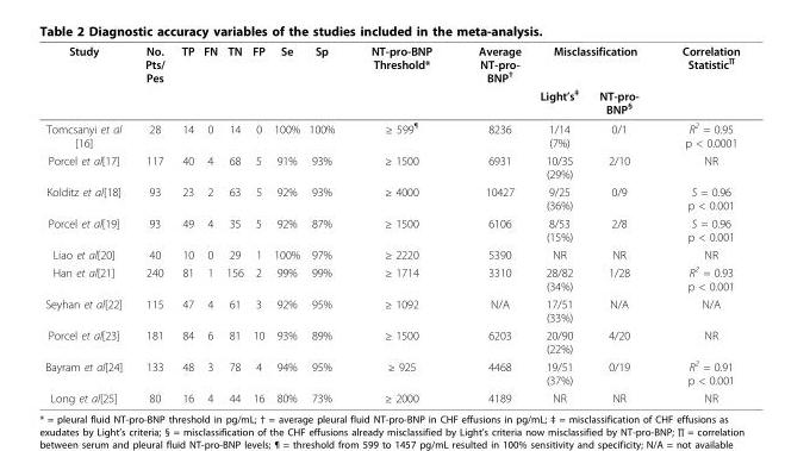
<table><thead><tr><td rowspan="2">Study</td><td rowspan="2">No. Pts/ Pes</td><td rowspan="2">TP</td><td rowspan="2">FN</td><td rowspan="2">TN</td><td rowspan="2">FP</td><td rowspan="2">Se</td><td rowspan="2">Sp</td><td rowspan="2">NT-pro-BNP Threshold*</td><td rowspan="2">Average NT-pro- BNP<sup>†</sup></td><td colspan="2">Misclassification</td><td rowspan="2">Correlation Statistic<sup>∏</sup></td></tr><tr><td>Light’s<sup>‡</sup></td><td>NT-pro- BNP<sup>§</sup></td></tr></thead><tbody><tr><td>Tomcsanyi et al [16]</td><td>28</td><td>14</td><td>0</td><td>14</td><td>0</td><td>100%</td><td>100%</td><td>≥ 599<sup>¶</sup></td><td>8236</td><td>1/14 (7%)</td><td>0/1</td><td>R<sup>2</sup> = 0.95 p &lt; 0.0001</td></tr><tr><td>Porcel et al[17]</td><td>117</td><td>40</td><td>4</td><td>68</td><td>5</td><td>91%</td><td>93%</td><td>≥ 1500</td><td>6931</td><td>10/35 (29%)</td><td>2/10</td><td>NR</td></tr><tr><td>Kolditz et al[18]</td><td>93</td><td>23</td><td>2</td><td>63</td><td>5</td><td>92%</td><td>93%</td><td>≥ 4000</td><td>10427</td><td>9/25 (36%)</td><td>0/9</td><td>S = 0.96 p &lt; 0.001</td></tr><tr><td>Porcel et al[19]</td><td>93</td><td>49</td><td>4</td><td>35</td><td>5</td><td>92%</td><td>87%</td><td>≥ 1500</td><td>6106</td><td>8/53 (15%)</td><td>2/8</td><td>S = 0.96 p &lt; 0.001</td></tr><tr><td>Liao et al[20]</td><td>40</td><td>10</td><td>0</td><td>29</td><td>1</td><td>100%</td><td>97%</td><td>≥ 2220</td><td>5390</td><td>NR</td><td>NR</td><td>NR</td></tr><tr><td>Han et al[21]</td><td>240</td><td>81</td><td>1</td><td>156</td><td>2</td><td>99%</td><td>99%</td><td>≥ 1714</td><td>3310</td><td>28/82 (34%)</td><td>1/28</td><td>R<sup>2</sup> = 0.93 p &lt; 0.001</td></tr><tr><td>Seyhan et al[22]</td><td>115</td><td>47</td><td>4</td><td>61</td><td>3</td><td>92%</td><td>95%</td><td>≥ 1092</td><td>N/A</td><td>17/51 (33%)</td><td>N/A</td><td>N/A</td></tr><tr><td>Porcel et al[23]</td><td>181</td><td>84</td><td>6</td><td>81</td><td>10</td><td>93%</td><td>89%</td><td>≥ 1500</td><td>6203</td><td>20/90 (22%)</td><td>4/20</td><td>NR</td></tr><tr><td>Bayram et al[24]</td><td>133</td><td>48</td><td>3</td><td>78</td><td>4</td><td>94%</td><td>95%</td><td>≥ 925</td><td>4468</td><td>19/51 (37%)</td><td>0/19</td><td>R<sup>2</sup> = 0.91 p &lt; 0.001</td></tr><tr><td>Long et al[25]</td><td>80</td><td>16</td><td>4</td><td>44</td><td>16</td><td>80%</td><td>73%</td><td>≥ 2000</td><td>4189</td><td>NR</td><td>NR</td><td>NR</td></tr></tbody></table>